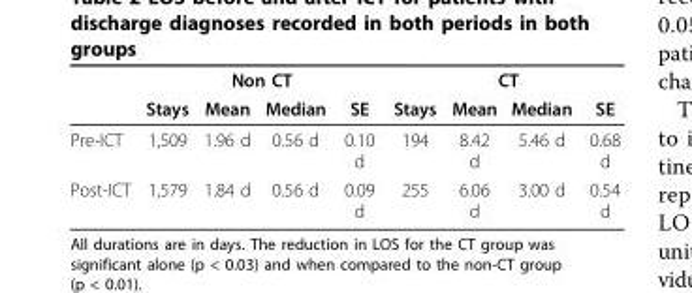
<table><thead><tr><td rowspan="2"></td><td colspan="4">Non CT</td><td colspan="4">CT</td></tr><tr><td>Stays</td><td>Mean</td><td>Median</td><td>SE</td><td>Stays</td><td>Mean</td><td>Median</td><td>SE</td></tr></thead><tbody><tr><td>Pre-ICT</td><td>1,509</td><td>1.96 d</td><td>0.56 d</td><td>0.10 d</td><td>194</td><td>8.42 d</td><td>5.46 d</td><td>0.68 d</td></tr><tr><td>Post-ICT</td><td>1,579</td><td>1.84 d</td><td>0.56 d</td><td>0.09 d</td><td>255</td><td>6.06 d</td><td>3.00 d</td><td>0.54 d</td></tr></tbody></table>